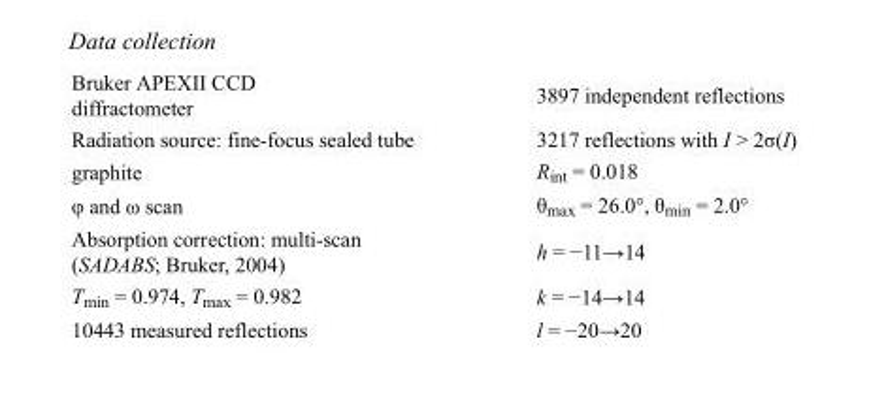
<table><tbody><tr><td>Bruker APEXII CCD diffractometer</td><td>3897 independent reflections</td></tr><tr><td>Radiation source: fine-focus sealed tube</td><td>3217 reflections with I &gt; 2σ(I)</td></tr><tr><td>graphite</td><td>R<sub>int</sub> = 0.018</td></tr><tr><td>φ and ω scan</td><td>θ<sub>max</sub> = 26.0°, θ<sub>min</sub> = 2.0°</td></tr><tr><td>Absorption correction: multi-scan (SADABS; Bruker, 2004)</td><td>h = −11→14</td></tr><tr><td>T<sub>min</sub> = 0.974, T<sub>max</sub> = 0.982</td><td>k = −14→14</td></tr><tr><td>10443 measured reflections</td><td>l = −20→20</td></tr></tbody></table>